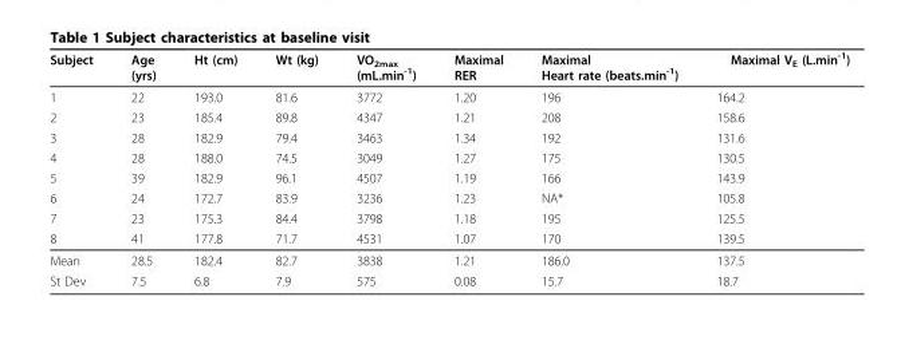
<table><thead><tr><td>Subject</td><td>Age (yrs)</td><td>Ht (cm)</td><td>Wt (kg)</td><td>VO<sub>2max</sub> (mL.min<sup>-1</sup>)</td><td>Maximal RER</td><td>Maximal Heart rate (beats.min<sup>-1</sup>)</td><td>Maximal V<sub>E</sub> (L.min<sup>-1</sup>)</td></tr></thead><tbody><tr><td>1</td><td>22</td><td>193.0</td><td>81.6</td><td>3772</td><td>1.20</td><td>196</td><td>164.2</td></tr><tr><td>2</td><td>23</td><td>185.4</td><td>89.8</td><td>4347</td><td>1.21</td><td>208</td><td>158.6</td></tr><tr><td>3</td><td>28</td><td>182.9</td><td>79.4</td><td>3463</td><td>1.34</td><td>192</td><td>131.6</td></tr><tr><td>4</td><td>28</td><td>188.0</td><td>74.5</td><td>3049</td><td>1.27</td><td>175</td><td>130.5</td></tr><tr><td>5</td><td>39</td><td>182.9</td><td>96.1</td><td>4507</td><td>1.19</td><td>166</td><td>143.9</td></tr><tr><td>6</td><td>24</td><td>172.7</td><td>83.9</td><td>3236</td><td>1.23</td><td>NA*</td><td>105.8</td></tr><tr><td>7</td><td>23</td><td>175.3</td><td>84.4</td><td>3798</td><td>1.18</td><td>195</td><td>125.5</td></tr><tr><td>8</td><td>41</td><td>177.8</td><td>71.7</td><td>4531</td><td>1.07</td><td>170</td><td>139.5</td></tr><tr><td>Mean</td><td>28.5</td><td>182.4</td><td>82.7</td><td>3838</td><td>1.21</td><td>186.0</td><td>137.5</td></tr><tr><td>St Dev</td><td>7.5</td><td>6.8</td><td>7.9</td><td>575</td><td>0.08</td><td>15.7</td><td>18.7</td></tr></tbody></table>